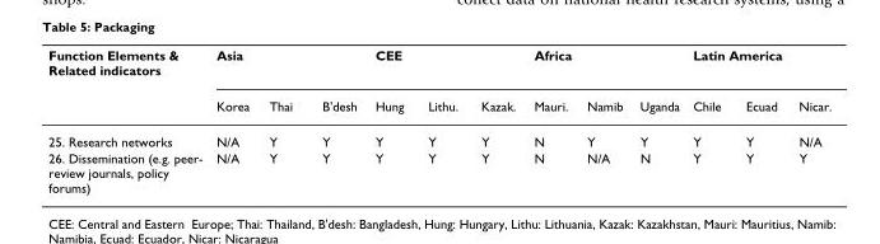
<table><thead><tr><td rowspan="2">Function Elements &amp; Related indicators</td><td colspan="3">Asia</td><td colspan="3">CEE</td><td colspan="3">Africa</td><td colspan="3">Latin America</td></tr><tr><td>Korea</td><td>Thai</td><td>B&#x27;desh</td><td>Hung</td><td>Lithu.</td><td>Kazak.</td><td>Mauri.</td><td>Namib</td><td>Uganda</td><td>Chile</td><td>Ecuad</td><td>Nicar.</td></tr></thead><tbody><tr><td>25. Research networks</td><td>N/A</td><td>Y</td><td>Y</td><td>Y</td><td>Y</td><td>Y</td><td>N</td><td>Y</td><td>Y</td><td>Y</td><td>Y</td><td>N/A</td></tr><tr><td>26. Dissemination (e.g. peer- review journals, policy forums)</td><td>N/A</td><td>Y</td><td>Y</td><td>Y</td><td>Y</td><td>Y</td><td>N</td><td>N/A</td><td>N</td><td>Y</td><td>Y</td><td>Y</td></tr></tbody></table>